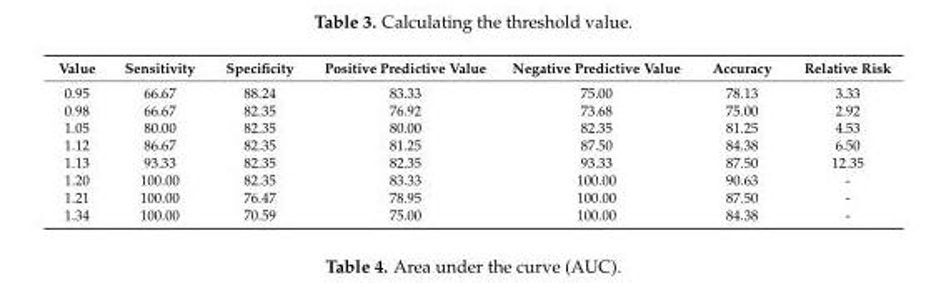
<table><thead><tr><td>Value</td><td>Sensitivity</td><td>Specificity</td><td>Positive Predictive Value</td><td>Negative Predictive Value</td><td>Accuracy</td><td>Relative Risk</td></tr></thead><tbody><tr><td>0.95</td><td>66.67</td><td>88.24</td><td>83.33</td><td>75.00</td><td>78.13</td><td>3.33</td></tr><tr><td>0.98</td><td>66.67</td><td>82.35</td><td>76.92</td><td>73.68</td><td>75.00</td><td>2.92</td></tr><tr><td>1.05</td><td>80.00</td><td>82.35</td><td>80.00</td><td>82.35</td><td>81.25</td><td>4.53</td></tr><tr><td>1.12</td><td>86.67</td><td>82.35</td><td>81.25</td><td>87.50</td><td>84.38</td><td>6.50</td></tr><tr><td>1.13</td><td>93.33</td><td>82.35</td><td>82.35</td><td>93.33</td><td>87.50</td><td>12.35</td></tr><tr><td>1.20</td><td>100.00</td><td>82.35</td><td>83.33</td><td>100.00</td><td>90.63</td><td>-</td></tr><tr><td>1.21</td><td>100.00</td><td>76.47</td><td>78.95</td><td>100.00</td><td>87.50</td><td>-</td></tr><tr><td>1.34</td><td>100.00</td><td>70.59</td><td>75.00</td><td>100.00</td><td>84.38</td><td>-</td></tr></tbody></table>